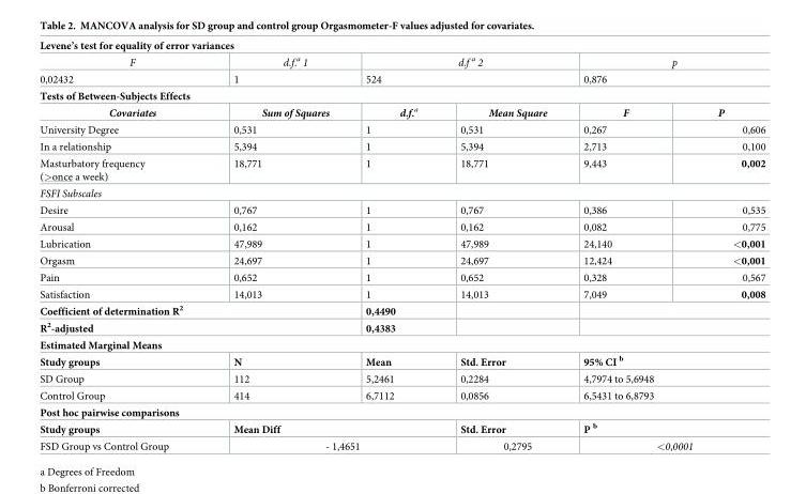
<table><tbody><tr><td colspan="6">Levene’s test for equality of error variances</td></tr><tr><td>F</td><td>d.f.<sup>a</sup> 1</td><td colspan="2">d.f <sup>a</sup> 2</td><td colspan="2">p</td></tr><tr><td>0,02432</td><td>1</td><td colspan="2">524</td><td colspan="2">0,876</td></tr><tr><td colspan="6">Tests of Between-Subjects Effects</td></tr><tr><td>Covariates</td><td>Sum of Squares</td><td>d.f.<sup>a</sup></td><td>Mean Square</td><td>F</td><td>P</td></tr><tr><td>University Degree</td><td>0,531</td><td>1</td><td>0,531</td><td>0,267</td><td>0,606</td></tr><tr><td>In a relationship</td><td>5,394</td><td>1</td><td>5,394</td><td>2,713</td><td>0,100</td></tr><tr><td>Masturbatory frequency (&gt;once a week)</td><td>18,771</td><td>1</td><td>18,771</td><td>9,443</td><td>0,002</td></tr><tr><td colspan="6">FSFI Subscales</td></tr><tr><td>Desire</td><td>0,767</td><td>1</td><td>0,767</td><td>0,386</td><td>0,535</td></tr><tr><td>Arousal</td><td>0,162</td><td>1</td><td>0,162</td><td>0,082</td><td>0,775</td></tr><tr><td>Lubrication</td><td>47,989</td><td>1</td><td>47,989</td><td>24,140</td><td>&lt;0,001</td></tr><tr><td>Orgasm</td><td>24,697</td><td>1</td><td>24,697</td><td>12,424</td><td>&lt;0,001</td></tr><tr><td>Pain</td><td>0,652</td><td>1</td><td>0,652</td><td>0,328</td><td>0,567</td></tr><tr><td>Satisfaction</td><td>14,013</td><td>1</td><td>14,013</td><td>7,049</td><td>0,008</td></tr><tr><td colspan="2">Coefficient of determination R<sup>2</sup></td><td>0,4490</td><td></td><td colspan="2"></td></tr><tr><td colspan="2">R<sup>2</sup>-adjusted</td><td>0,4383</td><td></td><td colspan="2"></td></tr><tr><td colspan="6">Estimated Marginal Means</td></tr><tr><td>Study groups</td><td>N</td><td>Mean</td><td>Std. Error</td><td colspan="2">95% CI <sup>b</sup></td></tr><tr><td>SD Group</td><td>112</td><td>5,2461</td><td>0,2284</td><td colspan="2">4,7974 to 5,6948</td></tr><tr><td>Control Group</td><td>414</td><td>6,7112</td><td>0,0856</td><td colspan="2">6,5431 to 6,8793</td></tr><tr><td colspan="6">Post hoc pairwise comparisons</td></tr><tr><td>Study groups</td><td colspan="2">Mean Diff</td><td>Std. Error</td><td colspan="2">P <sup>b</sup></td></tr><tr><td>FSD Group vs Control Group</td><td colspan="2">- 1,4651</td><td>0,2795</td><td colspan="2">&lt;0,0001</td></tr></tbody></table>